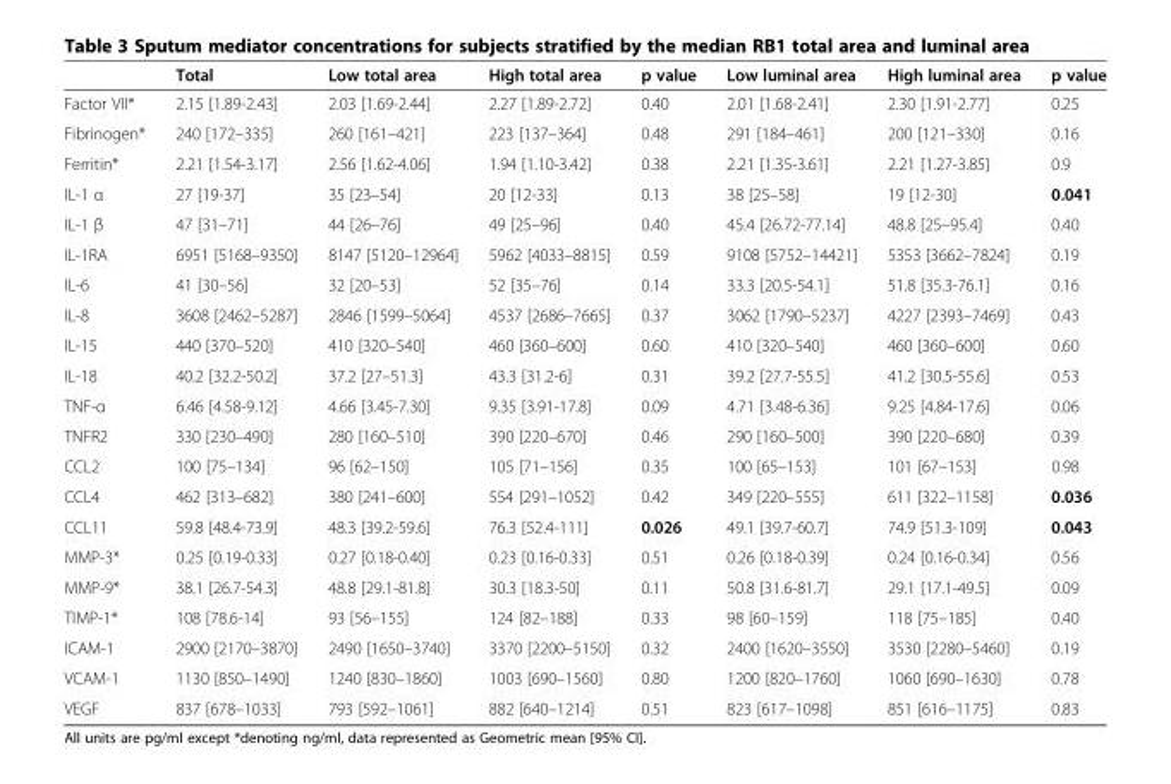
<table><thead><tr><td></td><td>Total</td><td>Low total area</td><td>High total area</td><td>p value</td><td>Low luminal area</td><td>High luminal area</td><td>p value</td></tr></thead><tbody><tr><td>Factor VII*</td><td>2.15 [1.89-2.43]</td><td>2.03 [1.69-2.44]</td><td>2.27 [1.89-2.72]</td><td>0.40</td><td>2.01 [1.68-2.41]</td><td>2.30 [1.91-2.77]</td><td>0.25</td></tr><tr><td>Fibrinogen*</td><td>240 [172–335]</td><td>260 [161–421]</td><td>223 [137–364]</td><td>0.48</td><td>291 [184–461]</td><td>200 [121–330]</td><td>0.16</td></tr><tr><td>Ferritin*</td><td>2.21 [1.54-3.17]</td><td>2.56 [1.62-4.06]</td><td>1.94 [1.10-3.42]</td><td>0.38</td><td>2.21 [1.35-3.61]</td><td>2.21 [1.27-3.85]</td><td>0.9</td></tr><tr><td>IL-1 α</td><td>27 [19-37]</td><td>35 [23–54]</td><td>20 [12-33]</td><td>0.13</td><td>38 [25–58]</td><td>19 [12-30]</td><td>0.041</td></tr><tr><td>IL-1 β</td><td>47 [31–71]</td><td>44 [26–76]</td><td>49 [25–96]</td><td>0.40</td><td>45.4 [26.72-77.14]</td><td>48.8 [25–95.4]</td><td>0.40</td></tr><tr><td>IL-1RA</td><td>6951 [5168–9350]</td><td>8147 [5120–12964]</td><td>5962 [4033–8815]</td><td>0.59</td><td>9108 [5752–14421]</td><td>5353 [3662–7824]</td><td>0.19</td></tr><tr><td>IL-6</td><td>41 [30–56]</td><td>32 [20–53]</td><td>52 [35–76]</td><td>0.14</td><td>33.3 [20.5-54.1]</td><td>51.8 [35.3-76.1]</td><td>0.16</td></tr><tr><td>IL-8</td><td>3608 [2462–5287]</td><td>2846 [1599–5064]</td><td>4537 [2686–7665]</td><td>0.37</td><td>3062 [1790–5237]</td><td>4227 [2393–7469]</td><td>0.43</td></tr><tr><td>IL-15</td><td>440 [370–520]</td><td>410 [320–540]</td><td>460 [360–600]</td><td>0.60</td><td>410 [320–540]</td><td>460 [360–600]</td><td>0.60</td></tr><tr><td>IL-18</td><td>40.2 [32.2-50.2]</td><td>37.2 [27–51.3]</td><td>43.3 [31.2-6]</td><td>0.31</td><td>39.2 [27.7-55.5]</td><td>41.2 [30.5-55.6]</td><td>0.53</td></tr><tr><td>TNF-α</td><td>6.46 [4.58-9.12]</td><td>4.66 [3.45-7.30]</td><td>9.35 [3.91-17.8]</td><td>0.09</td><td>4.71 [3.48-6.36]</td><td>9.25 [4.84-17.6]</td><td>0.06</td></tr><tr><td>TNFR2</td><td>330 [230–490]</td><td>280 [160–510]</td><td>390 [220–670]</td><td>0.46</td><td>290 [160–500]</td><td>390 [220–680]</td><td>0.39</td></tr><tr><td>CCL2</td><td>100 [75–134]</td><td>96 [62–150]</td><td>105 [71–156]</td><td>0.35</td><td>100 [65–153]</td><td>101 [67–153]</td><td>0.98</td></tr><tr><td>CCL4</td><td>462 [313–682]</td><td>380 [241–600]</td><td>554 [291–1052]</td><td>0.42</td><td>349 [220–555]</td><td>611 [322–1158]</td><td>0.036</td></tr><tr><td>CCL11</td><td>59.8 [48.4-73.9]</td><td>48.3 [39.2-59.6]</td><td>76.3 [52.4-111]</td><td>0.026</td><td>49.1 [39.7-60.7]</td><td>74.9 [51.3-109]</td><td>0.043</td></tr><tr><td>MMP-3*</td><td>0.25 [0.19-0.33]</td><td>0.27 [0.18-0.40]</td><td>0.23 [0.16-0.33]</td><td>0.51</td><td>0.26 [0.18-0.39]</td><td>0.24 [0.16-0.34]</td><td>0.56</td></tr><tr><td>MMP-9*</td><td>38.1 [26.7-54.3]</td><td>48.8 [29.1-81.8]</td><td>30.3 [18.3-50]</td><td>0.11</td><td>50.8 [31.6-81.7]</td><td>29.1 [17.1-49.5]</td><td>0.09</td></tr><tr><td>TIMP-1*</td><td>108 [78.6-14]</td><td>93 [56–155]</td><td>124 [82–188]</td><td>0.33</td><td>98 [60–159]</td><td>118 [75–185]</td><td>0.40</td></tr><tr><td>ICAM-1</td><td>2900 [2170–3870]</td><td>2490 [1650–3740]</td><td>3370 [2200–5150]</td><td>0.32</td><td>2400 [1620–3550]</td><td>3530 [2280–5460]</td><td>0.19</td></tr><tr><td>VCAM-1</td><td>1130 [850–1490]</td><td>1240 [830–1860]</td><td>1003 [690–1560]</td><td>0.80</td><td>1200 [820–1760]</td><td>1060 [690–1630]</td><td>0.78</td></tr><tr><td>VEGF</td><td>837 [678–1033]</td><td>793 [592–1061]</td><td>882 [640–1214]</td><td>0.51</td><td>823 [617–1098]</td><td>851 [616–1175]</td><td>0.83</td></tr></tbody></table>